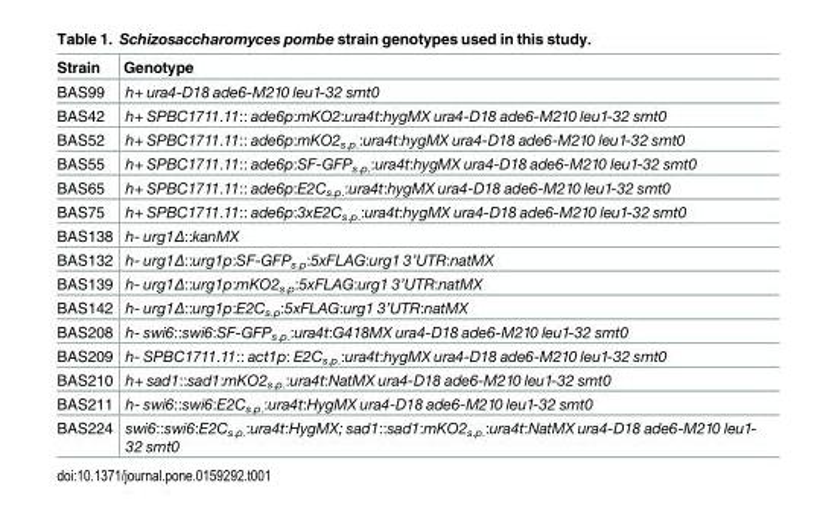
<table><thead><tr><td>Strain</td><td>Genotype</td></tr></thead><tbody><tr><td>BAS99</td><td>h+ ura4-D18 ade6-M210 leu1-32 smt0</td></tr><tr><td>BAS42</td><td>h+ SPBC1711.11:: ade6p:mKO2:ura4t:hygMX ura4-D18 ade6-M210 leu1-32 smt0</td></tr><tr><td>BAS52</td><td>h+ SPBC1711.11:: ade6p:mKO2<sub>s.p.</sub>:ura4t:hygMX ura4-D18 ade6-M210 leu1-32 smt0</td></tr><tr><td>BAS55</td><td>h+ SPBC1711.11:: ade6p:SF-GFP<sub>s.p.</sub>:ura4t:hygMX ura4-D18 ade6-M210 leu1-32 smt0</td></tr><tr><td>BAS65</td><td>h+ SPBC1711.11:: ade6p:E2C<sub>s.p.</sub>:ura4t:hygMX ura4-D18 ade6-M210 leu1-32 smt0</td></tr><tr><td>BAS75</td><td>h+ SPBC1711.11:: ade6p:3xE2C<sub>s.p.</sub>:ura4t:hygMX ura4-D18 ade6-M210 leu1-32 smt0</td></tr><tr><td>BAS138</td><td>h- urg1Δ::kanMX</td></tr><tr><td>BAS132</td><td>h- urg1Δ::urg1p:SF-GFP<sub>s.p</sub>:5xFLAG:urg1 3’UTR:natMX</td></tr><tr><td>BAS139</td><td>h- urg1Δ::urg1p:mKO2<sub>s.p</sub>:5xFLAG:urg1 3’UTR:natMX</td></tr><tr><td>BAS142</td><td>h- urg1Δ::urg1p:E2C<sub>s.p</sub>:5xFLAG:urg1 3’UTR:natMX</td></tr><tr><td>BAS208</td><td>h- swi6::swi6:SF-GFP<sub>s.p.</sub>:ura4t:G418MX ura4-D18 ade6-M210 leu1-32 smt0</td></tr><tr><td>BAS209</td><td>h- SPBC1711.11:: act1p: E2C<sub>s.p.</sub>:ura4t:hygMX ura4-D18 ade6-M210 leu1-32 smt0</td></tr><tr><td>BAS210</td><td>h+ sad1::sad1:mKO2<sub>s.p.</sub>:ura4t:NatMX ura4-D18 ade6-M210 leu1-32 smt0</td></tr><tr><td>BAS211</td><td>h- swi6::swi6:E2C<sub>s.p.</sub>:ura4t:HygMX ura4-D18 ade6-M210 leu1-32 smt0</td></tr><tr><td>BAS224</td><td>swi6::swi6:E2C<sub>s.p.</sub>:ura4t:HygMX; sad1::sad1:mKO2<sub>s.p.</sub>:ura4t:NatMX ura4-D18 ade6-M210 leu1- 32 smt0</td></tr></tbody></table>